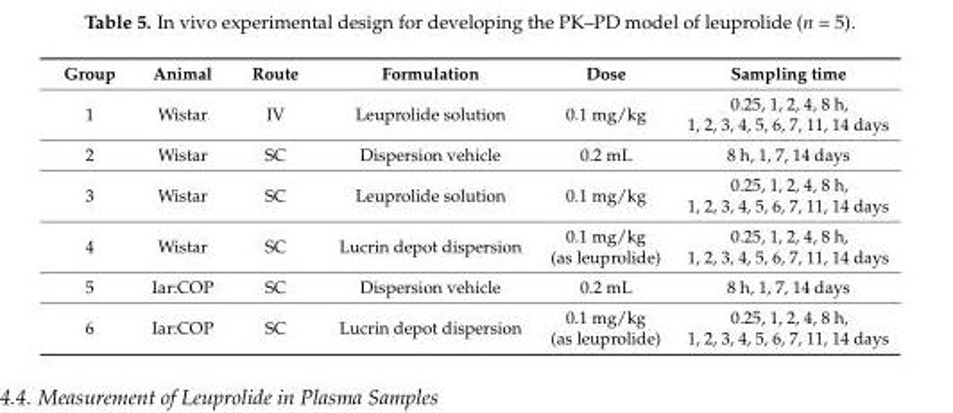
<table><thead><tr><td>Group</td><td>Animal</td><td>Route</td><td>Formulation</td><td>Dose</td><td>Sampling time</td></tr></thead><tbody><tr><td>1</td><td>Wistar</td><td>IV</td><td>Leuprolide solution</td><td>0.1 mg/kg</td><td>0.25, 1, 2, 4, 8 h, 1, 2, 3, 4, 5, 6, 7, 11, 14 days</td></tr><tr><td>2</td><td>Wistar</td><td>SC</td><td>Dispersion vehicle</td><td>0.2 mL</td><td>8 h, 1, 7, 14 days</td></tr><tr><td>3</td><td>Wistar</td><td>SC</td><td>Leuprolide solution</td><td>0.1 mg/kg</td><td>0.25, 1, 2, 4, 8 h, 1, 2, 3, 4, 5, 6, 7, 11, 14 days</td></tr><tr><td>4</td><td>Wistar</td><td>SC</td><td>Lucrin depot dispersion</td><td>0.1 mg/kg (as leuprolide)</td><td>0.25, 1, 2, 4, 8 h, 1, 2, 3, 4, 5, 6, 7, 11, 14 days</td></tr><tr><td>5</td><td>Iar:COP</td><td>SC</td><td>Dispersion vehicle</td><td>0.2 mL</td><td>8 h, 1, 7, 14 days</td></tr><tr><td>6</td><td>Iar:COP</td><td>SC</td><td>Lucrin depot dispersion</td><td>0.1 mg/kg (as leuprolide)</td><td>0.25, 1, 2, 4, 8 h, 1, 2, 3, 4, 5, 6, 7, 11, 14 days</td></tr></tbody></table>